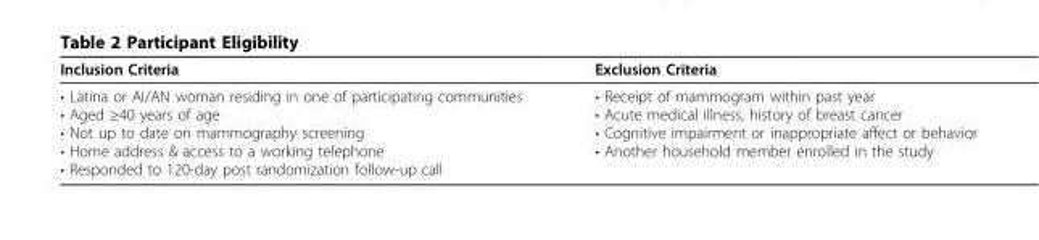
<table><thead><tr><td>Inclusion Criteria</td><td>Exclusion Criteria</td></tr></thead><tbody><tr><td>• Latina or AI/AN woman residing in one of participating communities • Aged ≥40 years of age • Not up to date on mammography screening • Home address &amp; access to a working telephone • Responded to 120-day post randomization follow-up call</td><td>• Receipt of mammogram within past year • Acute medical illness, history of breast cancer • Cognitive impairment or inappropriate affect or behavior • Another household member enrolled in the study</td></tr></tbody></table>